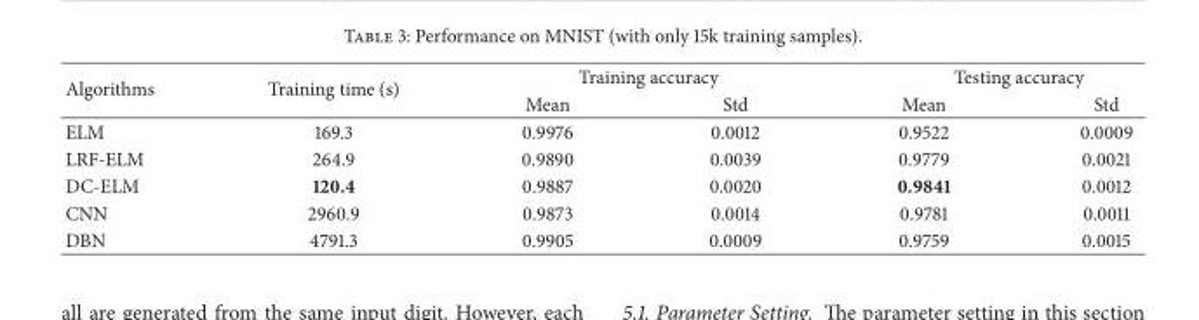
<table><thead><tr><td rowspan="2">Algorithms</td><td rowspan="2">Training time (s)</td><td colspan="2">Training accuracy</td><td colspan="2">Testing accuracy</td></tr><tr><td>Mean</td><td>Std</td><td>Mean</td><td>Std</td></tr></thead><tbody><tr><td>ELM</td><td>169.3</td><td>0.9976</td><td>0.0012</td><td>0.9522</td><td>0.0009</td></tr><tr><td>LRF-ELM</td><td>264.9</td><td>0.9890</td><td>0.0039</td><td>0.9779</td><td>0.0021</td></tr><tr><td>DC-ELM</td><td>120.4</td><td>0.9887</td><td>0.0020</td><td>0.9841</td><td>0.0012</td></tr><tr><td>CNN</td><td>2960.9</td><td>0.9873</td><td>0.0014</td><td>0.9781</td><td>0.0011</td></tr><tr><td>DBN</td><td>4791.3</td><td>0.9905</td><td>0.0009</td><td>0.9759</td><td>0.0015</td></tr></tbody></table>